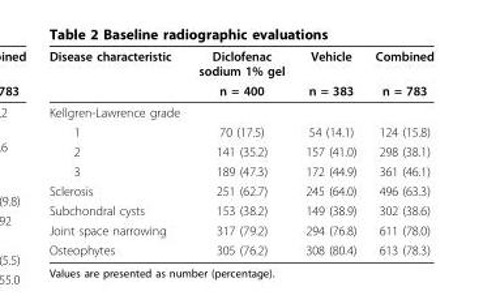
<table><thead><tr><td rowspan="2">Disease characteristic</td><td rowspan="2">Diclofenac sodium 1% gel n = 400</td><td rowspan="2">Vehicle n = 383</td><td rowspan="2">Combined n = 783</td></tr><tr></tr></thead><tbody><tr><td colspan="4">Kellgren-Lawrence grade</td></tr><tr><td>1</td><td>70 (17.5)</td><td>54 (14.1)</td><td>124 (15.8)</td></tr><tr><td>2</td><td>141 (35.2)</td><td>157 (41.0)</td><td>298 (38.1)</td></tr><tr><td>3</td><td>189 (47.3)</td><td>172 (44.9)</td><td>361 (46.1)</td></tr><tr><td>Sclerosis</td><td>251 (62.7)</td><td>245 (64.0)</td><td>496 (63.3)</td></tr><tr><td>Subchondral cysts</td><td>153 (38.2)</td><td>149 (38.9)</td><td>302 (38.6)</td></tr><tr><td>Joint space narrowing</td><td>317 (79.2)</td><td>294 (76.8)</td><td>611 (78.0)</td></tr><tr><td>Osteophytes</td><td>305 (76.2)</td><td>308 (80.4)</td><td>613 (78.3)</td></tr></tbody></table>